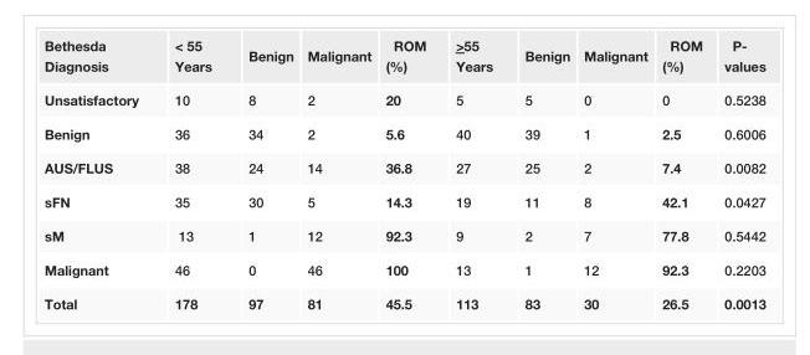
<table><tbody><tr><td>Bethesda Diagnosis</td><td>&lt; 55 Years</td><td>Benign</td><td>Malignant</td><td>ROM (%)</td><td>&gt;55 Years</td><td>Benign</td><td>Malignant</td><td>ROM (%)</td><td>P- values</td></tr><tr><td>Unsatisfactory</td><td>10</td><td>8</td><td>2</td><td>20</td><td>5</td><td>5</td><td>0</td><td>0</td><td>0.5238</td></tr><tr><td>Benign</td><td>36</td><td>34</td><td>2</td><td>5.6</td><td>40</td><td>39</td><td>1</td><td>2.5</td><td>0.6006</td></tr><tr><td>AUS/FLUS</td><td>38</td><td>24</td><td>14</td><td>36.8</td><td>27</td><td>25</td><td>2</td><td>7.4</td><td>0.0082</td></tr><tr><td>sFN</td><td>35</td><td>30</td><td>5</td><td>14.3</td><td>19</td><td>11</td><td>8</td><td>42.1</td><td>0.0427</td></tr><tr><td>sM</td><td>13</td><td>1</td><td>12</td><td>92.3</td><td>9</td><td>2</td><td>7</td><td>77.8</td><td>0.5442</td></tr><tr><td>Malignant</td><td>46</td><td>0</td><td>46</td><td>100</td><td>13</td><td>1</td><td>12</td><td>92.3</td><td>0.2203</td></tr><tr><td>Total</td><td>178</td><td>97</td><td>81</td><td>45.5</td><td>113</td><td>83</td><td>30</td><td>26.5</td><td>0.0013</td></tr></tbody></table>